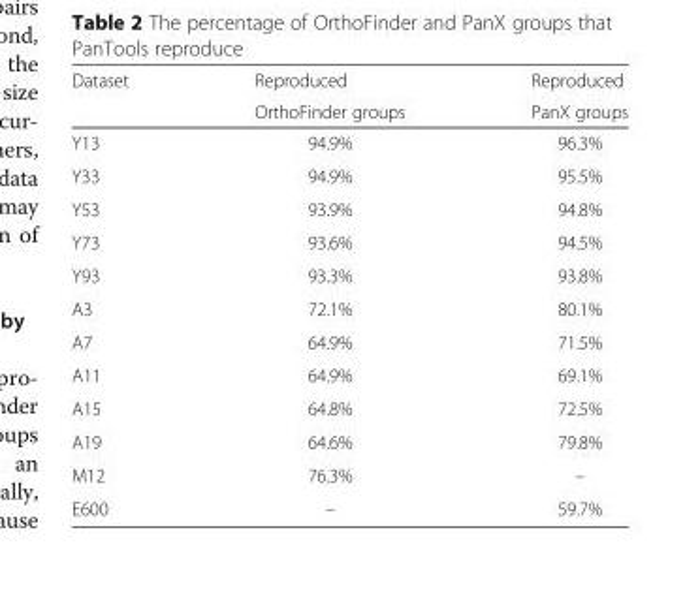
<table><thead><tr><td rowspan="2">Dataset</td><td rowspan="2">Reproduced OrthoFinder groups</td><td rowspan="2">Reproduced PanX groups</td></tr><tr></tr></thead><tbody><tr><td>Y13</td><td>94.9%</td><td>96.3%</td></tr><tr><td>Y33</td><td>94.9%</td><td>95.5%</td></tr><tr><td>Y53</td><td>93.9%</td><td>94.8%</td></tr><tr><td>Y73</td><td>93.6%</td><td>94.5%</td></tr><tr><td>Y93</td><td>93.3%</td><td>93.8%</td></tr><tr><td>A3</td><td>72.1%</td><td>80.1%</td></tr><tr><td>A7</td><td>64.9%</td><td>71.5%</td></tr><tr><td>A11</td><td>64.9%</td><td>69.1%</td></tr><tr><td>A15</td><td>64.8%</td><td>72.5%</td></tr><tr><td>A19</td><td>64.6%</td><td>79.8%</td></tr><tr><td>M12</td><td>76.3%</td><td>–</td></tr><tr><td>E600</td><td>–</td><td>59.7%</td></tr></tbody></table>